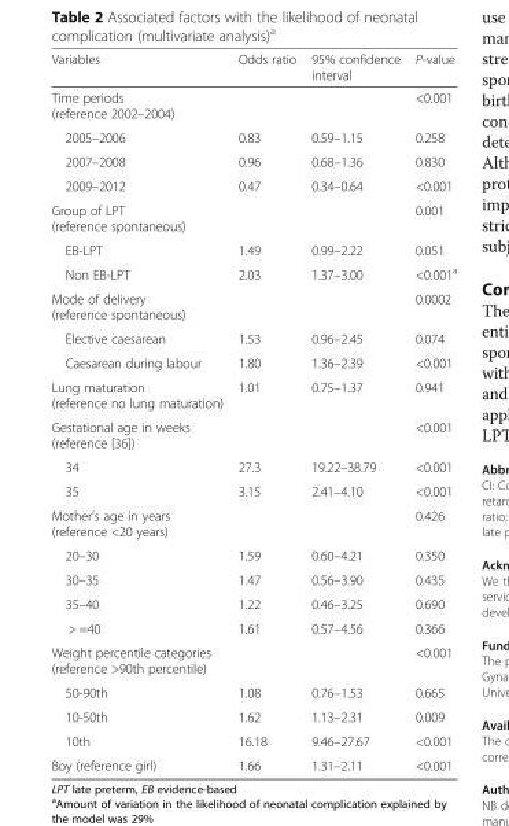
<table><thead><tr><td>Variables</td><td>Odds ratio</td><td>95% confidence interval</td><td>P-value</td></tr></thead><tbody><tr><td>Time periods (reference 2002–2004)</td><td></td><td></td><td>&lt;0.001</td></tr><tr><td>2005–2006</td><td>0.83</td><td>0.59–1.15</td><td>0.258</td></tr><tr><td>2007–2008</td><td>0.96</td><td>0.68–1.36</td><td>0.830</td></tr><tr><td>2009–2012</td><td>0.47</td><td>0.34–0.64</td><td>&lt;0.001</td></tr><tr><td>Group of LPT (reference spontaneous)</td><td></td><td></td><td>0.001</td></tr><tr><td>EB-LPT</td><td>1.49</td><td>0.99–2.22</td><td>0.051</td></tr><tr><td>Non EB-LPT</td><td>2.03</td><td>1.37–3.00</td><td>&lt;0.001<sup>a</sup></td></tr><tr><td>Mode of delivery (reference spontaneous)</td><td></td><td></td><td>0.0002</td></tr><tr><td>Elective caesarean</td><td>1.53</td><td>0.96–2.45</td><td>0.074</td></tr><tr><td>Caesarean during labour</td><td>1.80</td><td>1.36–2.39</td><td>&lt;0.001</td></tr><tr><td>Lung maturation (reference no lung maturation)</td><td>1.01</td><td>0.75–1.37</td><td>0.941</td></tr><tr><td>Gestational age in weeks (reference [36])</td><td></td><td></td><td>&lt;0.001</td></tr><tr><td>34</td><td>27.3</td><td>19.22–38.79</td><td>&lt;0.001</td></tr><tr><td>35</td><td>3.15</td><td>2.41–4.10</td><td>&lt;0.001</td></tr><tr><td>Mother’s age in years (reference &lt;20 years)</td><td></td><td></td><td>0.426</td></tr><tr><td>20–30</td><td>1.59</td><td>0.60–4.21</td><td>0.350</td></tr><tr><td>30–35</td><td>1.47</td><td>0.56–3.90</td><td>0.435</td></tr><tr><td>35–40</td><td>1.22</td><td>0.46–3.25</td><td>0.690</td></tr><tr><td>&gt; =40</td><td>1.61</td><td>0.57–4.56</td><td>0.366</td></tr><tr><td>Weight percentile categories (reference &gt;90th percentile)</td><td></td><td></td><td>&lt;0.001</td></tr><tr><td>50-90th</td><td>1.08</td><td>0.76–1.53</td><td>0.665</td></tr><tr><td>10-50th</td><td>1.62</td><td>1.13–2.31</td><td>0.009</td></tr><tr><td>10th</td><td>16.18</td><td>9.46–27.67</td><td>&lt;0.001</td></tr><tr><td>Boy (reference girl)</td><td>1.66</td><td>1.31–2.11</td><td>&lt;0.001</td></tr></tbody></table>